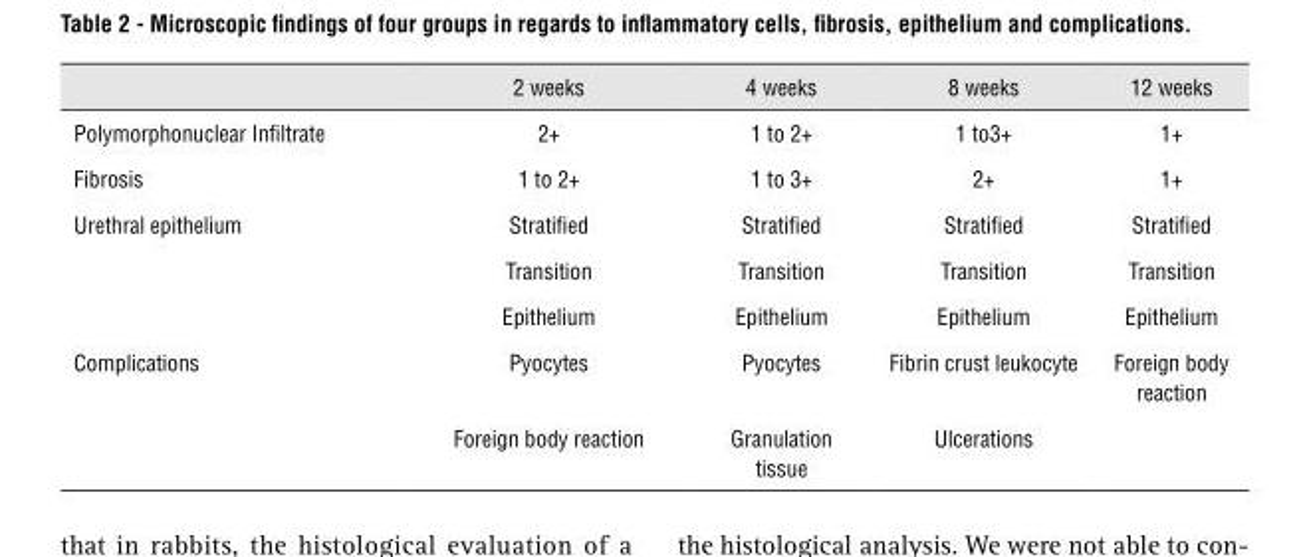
<table><thead><tr><td></td><td>2 weeks</td><td>4 weeks</td><td>8 weeks</td><td>12 weeks</td></tr></thead><tbody><tr><td>Polymorphonuclear Infiltrate</td><td>2+</td><td>1 to 2+</td><td>1 to3+</td><td>1+</td></tr><tr><td>Fibrosis</td><td>1 to 2+</td><td>1 to 3+</td><td>2+</td><td>1+</td></tr><tr><td rowspan="3">Urethral epithelium</td><td>Stratified</td><td>Stratified</td><td>Stratified</td><td>Stratified</td></tr><tr><td>Transition</td><td>Transition</td><td>Transition</td><td>Transition</td></tr><tr><td>Epithelium</td><td>Epithelium</td><td>Epithelium</td><td>Epithelium</td></tr><tr><td rowspan="2">Complications</td><td>Pyocytes</td><td>Pyocytes</td><td>Fibrin crust leukocyte</td><td>Foreign body reaction</td></tr><tr><td>Foreign body reaction</td><td>Granulation tissue</td><td>Ulcerations</td><td></td></tr></tbody></table>